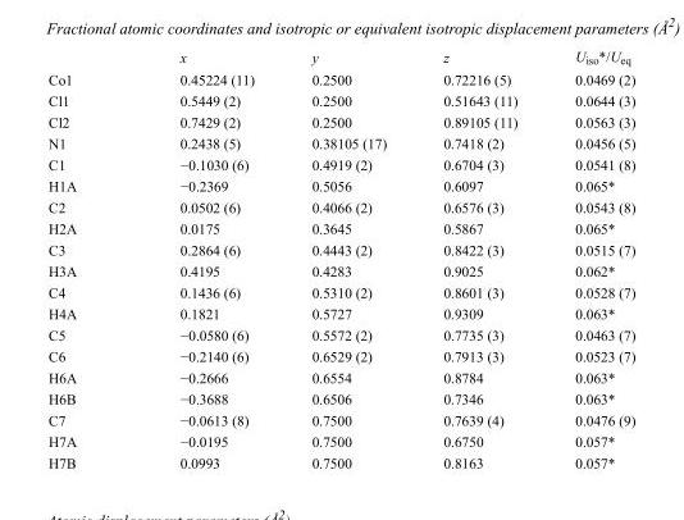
<table><thead><tr><td></td><td>x</td><td>y</td><td>z</td><td>U<sub>iso</sub>*/U<sub>eq</sub></td></tr></thead><tbody><tr><td>Co1</td><td>0.45224 (11)</td><td>0.2500</td><td>0.72216 (5)</td><td>0.0469 (2)</td></tr><tr><td>Cl1</td><td>0.5449 (2)</td><td>0.2500</td><td>0.51643 (11)</td><td>0.0644 (3)</td></tr><tr><td>Cl2</td><td>0.7429 (2)</td><td>0.2500</td><td>0.89105 (11)</td><td>0.0563 (3)</td></tr><tr><td>N1</td><td>0.2438 (5)</td><td>0.38105 (17)</td><td>0.7418 (2)</td><td>0.0456 (5)</td></tr><tr><td>C1</td><td>−0.1030 (6)</td><td>0.4919 (2)</td><td>0.6704 (3)</td><td>0.0541 (8)</td></tr><tr><td>H1A</td><td>−0.2369</td><td>0.5056</td><td>0.6097</td><td>0.065*</td></tr><tr><td>C2</td><td>0.0502 (6)</td><td>0.4066 (2)</td><td>0.6576 (3)</td><td>0.0543 (8)</td></tr><tr><td>H2A</td><td>0.0175</td><td>0.3645</td><td>0.5867</td><td>0.065*</td></tr><tr><td>C3</td><td>0.2864 (6)</td><td>0.4443 (2)</td><td>0.8422 (3)</td><td>0.0515 (7)</td></tr><tr><td>H3A</td><td>0.4195</td><td>0.4283</td><td>0.9025</td><td>0.062*</td></tr><tr><td>C4</td><td>0.1436 (6)</td><td>0.5310 (2)</td><td>0.8601 (3)</td><td>0.0528 (7)</td></tr><tr><td>H4A</td><td>0.1821</td><td>0.5727</td><td>0.9309</td><td>0.063*</td></tr><tr><td>C5</td><td>−0.0580 (6)</td><td>0.5572 (2)</td><td>0.7735 (3)</td><td>0.0463 (7)</td></tr><tr><td>C6</td><td>−0.2140 (6)</td><td>0.6529 (2)</td><td>0.7913 (3)</td><td>0.0523 (7)</td></tr><tr><td>H6A</td><td>−0.2666</td><td>0.6554</td><td>0.8784</td><td>0.063*</td></tr><tr><td>H6B</td><td>−0.3688</td><td>0.6506</td><td>0.7346</td><td>0.063*</td></tr><tr><td>C7</td><td>−0.0613 (8)</td><td>0.7500</td><td>0.7639 (4)</td><td>0.0476 (9)</td></tr><tr><td>H7A</td><td>−0.0195</td><td>0.7500</td><td>0.6750</td><td>0.057*</td></tr><tr><td>H7B</td><td>0.0993</td><td>0.7500</td><td>0.8163</td><td>0.057*</td></tr></tbody></table>